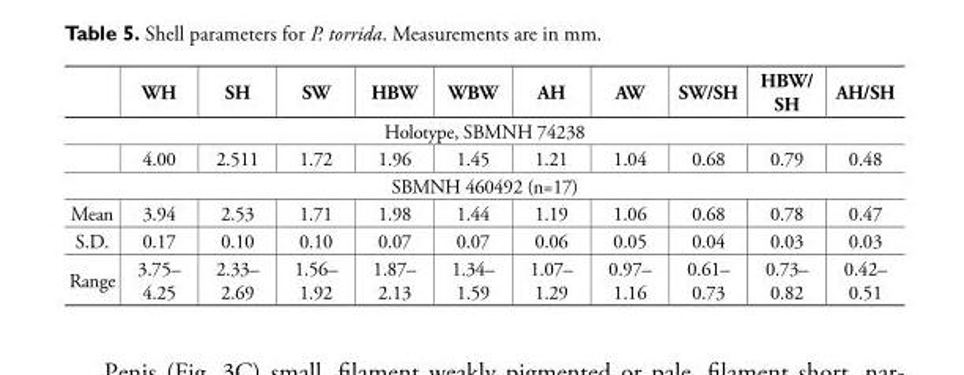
<table><thead><tr><td></td><td>WH</td><td>SH</td><td>SW</td><td>HBW</td><td>WBW</td><td>AH</td><td>AW</td><td>SW/SH</td><td>HBW/ SH</td><td>AH/SH</td></tr></thead><tbody><tr><td colspan="11">Holotype, SBMNH 74238</td></tr><tr><td></td><td>4.00</td><td>2.511</td><td>1.72</td><td>1.96</td><td>1.45</td><td>1.21</td><td>1.04</td><td>0.68</td><td>0.79</td><td>0.48</td></tr><tr><td colspan="11">SBMNH 460492 (n=17)</td></tr><tr><td>Mean</td><td>3.94</td><td>2.53</td><td>1.71</td><td>1.98</td><td>1.44</td><td>1.19</td><td>1.06</td><td>0.68</td><td>0.78</td><td>0.47</td></tr><tr><td>S.D.</td><td>0.17</td><td>0.10</td><td>0.10</td><td>0.07</td><td>0.07</td><td>0.06</td><td>0.05</td><td>0.04</td><td>0.03</td><td>0.03</td></tr><tr><td>Range</td><td>3.75– 4.25</td><td>2.33– 2.69</td><td>1.56– 1.92</td><td>1.87– 2.13</td><td>1.34– 1.59</td><td>1.07– 1.29</td><td>0.97– 1.16</td><td>0.61– 0.73</td><td>0.73– 0.82</td><td>0.42– 0.51</td></tr></tbody></table>